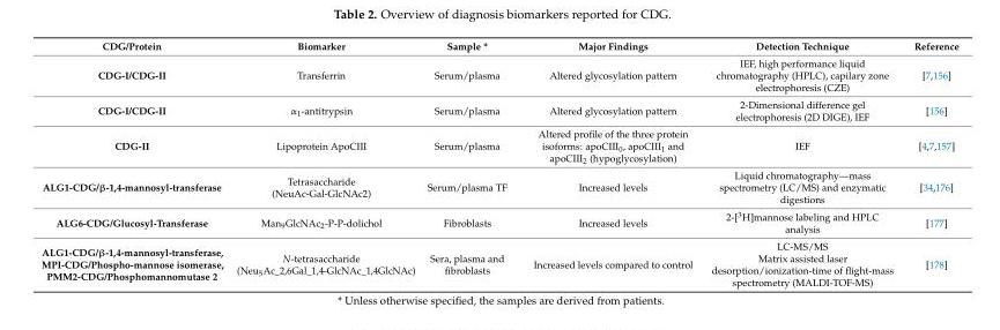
<table><thead><tr><td>CDG/Protein</td><td>Biomarker</td><td>Sample *</td><td>Major Findings</td><td>Detection Technique</td><td>Reference</td></tr></thead><tbody><tr><td>CDG-I/CDG-II</td><td>Transferrin</td><td>Serum/plasma</td><td>Altered glycosylation pattern</td><td>IEF, high performance liquid chromatography (HPLC), capilary zone electrophoresis (CZE)</td><td>[7,156]</td></tr><tr><td>CDG-I/CDG-II</td><td>α<sub>1</sub>-antitrypsin</td><td>Serum/plasma</td><td>Altered glycosylation pattern</td><td>2-Dimensional difference gel electrophoresis (2D DIGE), IEF</td><td>[156]</td></tr><tr><td>CDG-II</td><td>Lipoprotein ApoCIII</td><td>Serum/plasma</td><td>Altered profile of the three protein isoforms: apoCIII<sub>0</sub>, apoCIII<sub>1</sub> and apoCIII<sub>2</sub> (hypoglycosylation)</td><td>IEF</td><td>[4,7,157]</td></tr><tr><td>ALG1-CDG/β-1,4-mannosyl-transferase</td><td>Tetrasaccharide (NeuAc-Gal-GlcNAc2)</td><td>Serum/plasma TF</td><td>Increased levels</td><td>Liquid chromatography—mass spectrometry (LC/MS) and enzymatic digestions</td><td>[34,176]</td></tr><tr><td>ALG6-CDG/Glucosyl-Transferase</td><td>Man<sub>9</sub>GlcNAc<sub>2</sub>-P-P-dolichol</td><td>Fibroblasts</td><td>Increased levels</td><td>2-[<sup>3</sup>H]mannose labeling and HPLC analysis</td><td>[177]</td></tr><tr><td>ALG1-CDG/β-1,4-mannosyl-transferase, MPI-CDG/Phospho-mannose isomerase, PMM2-CDG/Phosphomannomutase 2</td><td>N-tetrasaccharide (Neu<sub>5</sub>Ac_2,6Gal_1,4-GlcNAc_1,4GlcNAc)</td><td>Sera, plasma and fibroblasts</td><td>Increased levels compared to control</td><td>LC-MS/MS Matrix assisted laser desorption/ionization-time of flight-mass spectrometry (MALDI-TOF-MS)</td><td>[178]</td></tr></tbody></table>